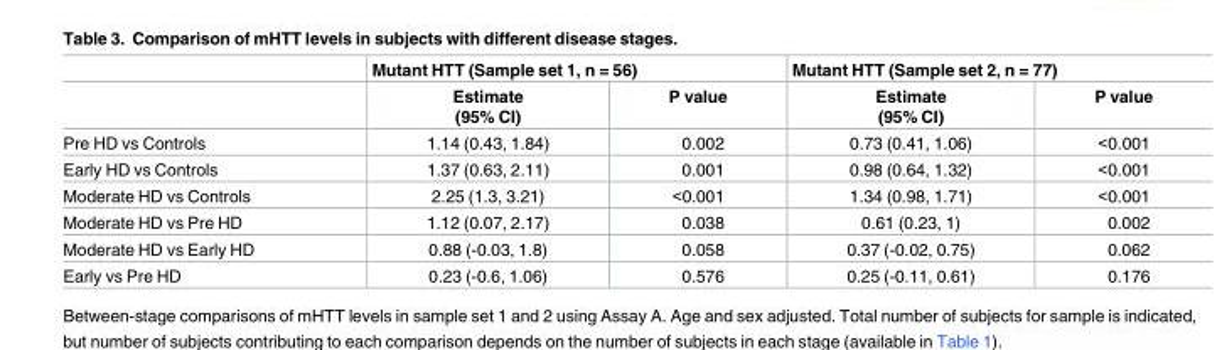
<table><thead><tr><td rowspan="2"></td><td colspan="2">Mutant HTT (Sample set 1, n = 56)</td><td colspan="2">Mutant HTT (Sample set 2, n = 77)</td></tr><tr><td>Estimate (95% CI)</td><td>P value</td><td>Estimate (95% CI)</td><td>P value</td></tr></thead><tbody><tr><td>Pre HD vs Controls</td><td>1.14 (0.43, 1.84)</td><td>0.002</td><td>0.73 (0.41, 1.06)</td><td>&lt;0.001</td></tr><tr><td>Early HD vs Controls</td><td>1.37 (0.63, 2.11)</td><td>0.001</td><td>0.98 (0.64, 1.32)</td><td>&lt;0.001</td></tr><tr><td>Moderate HD vs Controls</td><td>2.25 (1.3, 3.21)</td><td>&lt;0.001</td><td>1.34 (0.98, 1.71)</td><td>&lt;0.001</td></tr><tr><td>Moderate HD vs Pre HD</td><td>1.12 (0.07, 2.17)</td><td>0.038</td><td>0.61 (0.23, 1)</td><td>0.002</td></tr><tr><td>Moderate HD vs Early HD</td><td>0.88 (-0.03, 1.8)</td><td>0.058</td><td>0.37 (-0.02, 0.75)</td><td>0.062</td></tr><tr><td>Early vs Pre HD</td><td>0.23 (-0.6, 1.06)</td><td>0.576</td><td>0.25 (-0.11, 0.61)</td><td>0.176</td></tr></tbody></table>